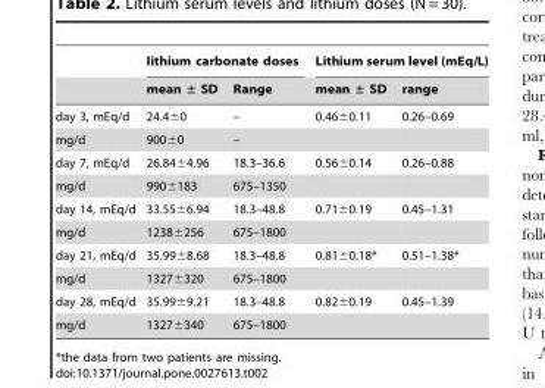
<table><thead><tr><td rowspan="2"></td><td colspan="2">lithium carbonate doses</td><td colspan="2">Lithium serum level (mEq/L)</td></tr><tr><td>mean ± SD</td><td>Range</td><td>mean ± SD</td><td>range</td></tr></thead><tbody><tr><td>day 3, mEq/d</td><td>24.4±0</td><td>–</td><td>0.46±0.11</td><td>0.26–0.69</td></tr><tr><td>mg/d</td><td>900±0</td><td>–</td><td></td><td></td></tr><tr><td>day 7, mEq/d</td><td>26.84±4.96</td><td>18.3–36.6</td><td>0.56±0.14</td><td>0.26–0.88</td></tr><tr><td>mg/d</td><td>990±183</td><td>675–1350</td><td></td><td></td></tr><tr><td>day 14, mEq/d</td><td>33.55±6.94</td><td>18.3–48.8</td><td>0.71±0.19</td><td>0.45–1.31</td></tr><tr><td>mg/d</td><td>1238±256</td><td>675–1800</td><td></td><td></td></tr><tr><td>day 21, mEq/d</td><td>35.99±8.68</td><td>18.3–48.8</td><td>0.81±0.18*</td><td>0.51–1.38*</td></tr><tr><td>mg/d</td><td>1327±320</td><td>675–1800</td><td></td><td></td></tr><tr><td>day 28, mEq/d</td><td>35.99±9.21</td><td>18.3–48.8</td><td>0.82±0.19</td><td>0.45–1.39</td></tr><tr><td>mg/d</td><td>1327±340</td><td>675–1800</td><td></td><td></td></tr></tbody></table>